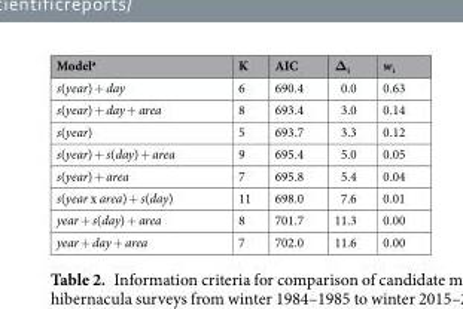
<table><thead><tr><td>Model<sup>a</sup></td><td>K</td><td>AIC</td><td>Δ<sub>i</sub></td><td>w<sub>i</sub></td></tr></thead><tbody><tr><td>s(year) + day</td><td>6</td><td>690.4</td><td>0.0</td><td>0.63</td></tr><tr><td>s(year) + day + area</td><td>8</td><td>693.4</td><td>3.0</td><td>0.14</td></tr><tr><td>s(year)</td><td>5</td><td>693.7</td><td>3.3</td><td>0.12</td></tr><tr><td>s(year) + s(day) + area</td><td>9</td><td>695.4</td><td>5.0</td><td>0.05</td></tr><tr><td>s(year) + area</td><td>7</td><td>695.8</td><td>5.4</td><td>0.04</td></tr><tr><td>s(year x area) + s(day)</td><td>11</td><td>698.0</td><td>7.6</td><td>0.01</td></tr><tr><td>year + s(day) + area</td><td>8</td><td>701.7</td><td>11.3</td><td>0.00</td></tr><tr><td>year + day + area</td><td>7</td><td>702.0</td><td>11.6</td><td>0.00</td></tr></tbody></table>